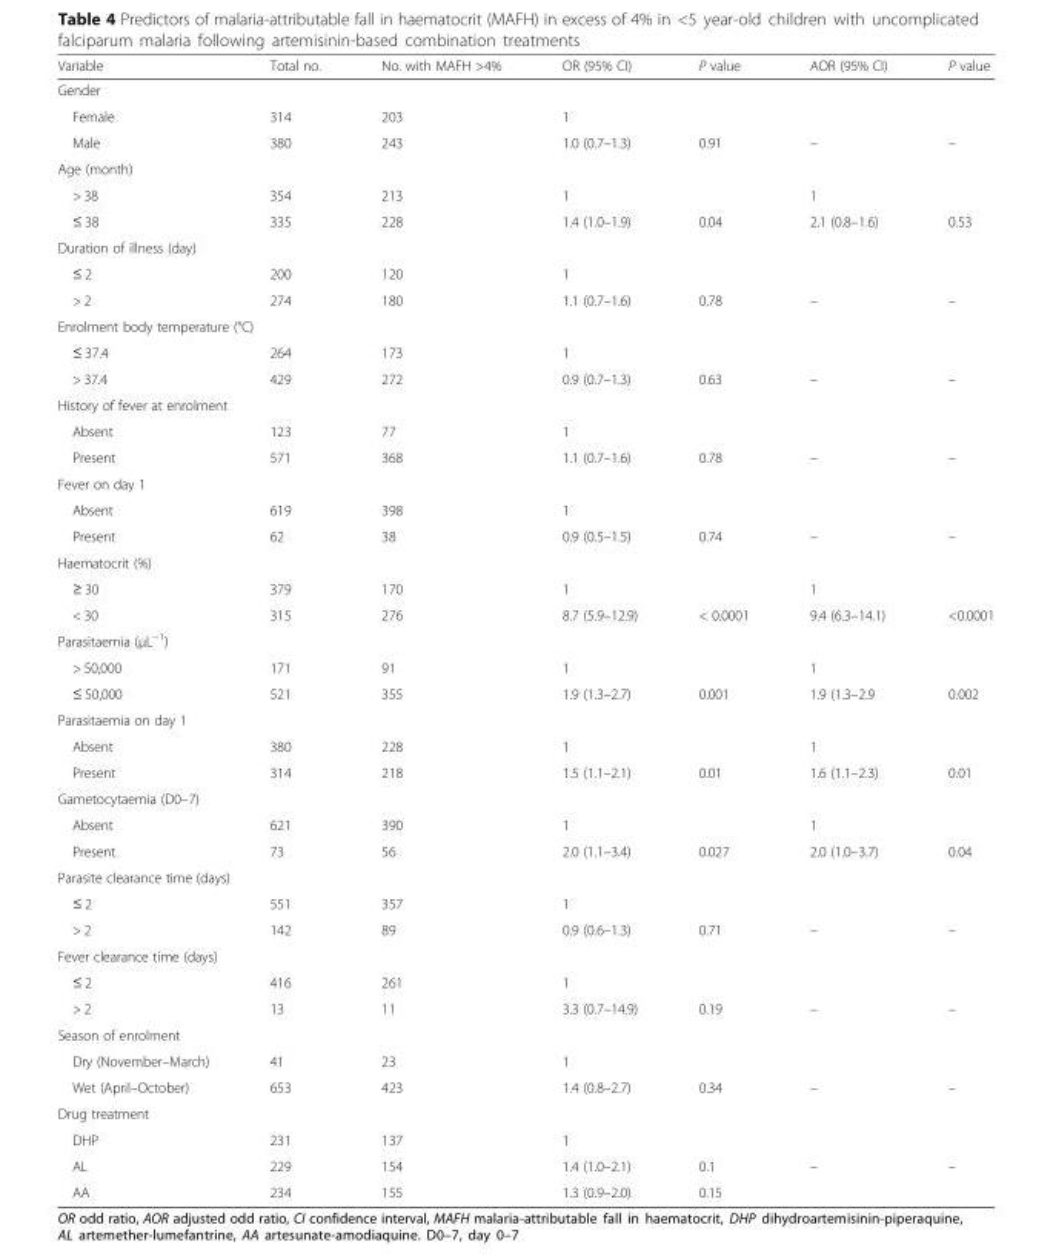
<table><thead><tr><td>Variable</td><td>Total no.</td><td>No. with MAFH &gt;4%</td><td>OR (95% CI)</td><td>P value</td><td>AOR (95% CI)</td><td>P value</td></tr></thead><tbody><tr><td colspan="7">Gender</td></tr><tr><td>Female</td><td>314</td><td>203</td><td>1</td><td></td><td></td><td></td></tr><tr><td>Male</td><td>380</td><td>243</td><td>1.0 (0.7–1.3)</td><td>0.91</td><td>–</td><td>–</td></tr><tr><td colspan="7">Age (month)</td></tr><tr><td>&gt; 38</td><td>354</td><td>213</td><td>1</td><td></td><td>1</td><td></td></tr><tr><td>≤ 38</td><td>335</td><td>228</td><td>1.4 (1.0–1.9)</td><td>0.04</td><td>2.1 (0.8–1.6)</td><td>0.53</td></tr><tr><td colspan="7">Duration of illness (day)</td></tr><tr><td>≤ 2</td><td>200</td><td>120</td><td>1</td><td></td><td></td><td></td></tr><tr><td>&gt; 2</td><td>274</td><td>180</td><td>1.1 (0.7–1.6)</td><td>0.78</td><td>–</td><td>–</td></tr><tr><td colspan="7">Enrolment body temperature (°C)</td></tr><tr><td>≤ 37.4</td><td>264</td><td>173</td><td>1</td><td></td><td></td><td></td></tr><tr><td>&gt; 37.4</td><td>429</td><td>272</td><td>0.9 (0.7–1.3)</td><td>0.63</td><td>–</td><td>–</td></tr><tr><td colspan="7">History of fever at enrolment</td></tr><tr><td>Absent</td><td>123</td><td>77</td><td>1</td><td></td><td></td><td></td></tr><tr><td>Present</td><td>571</td><td>368</td><td>1.1 (0.7–1.6)</td><td>0.78</td><td>–</td><td>–</td></tr><tr><td colspan="7">Fever on day 1</td></tr><tr><td>Absent</td><td>619</td><td>398</td><td>1</td><td></td><td></td><td></td></tr><tr><td>Present</td><td>62</td><td>38</td><td>0.9 (0.5–1.5)</td><td>0.74</td><td>–</td><td>–</td></tr><tr><td colspan="7">Haematocrit (%)</td></tr><tr><td>≥ 30</td><td>379</td><td>170</td><td>1</td><td></td><td>1</td><td></td></tr><tr><td>&lt; 30</td><td>315</td><td>276</td><td>8.7 (5.9–12.9)</td><td>&lt; 0.0001</td><td>9.4 (6.3–14.1)</td><td>&lt;0.0001</td></tr><tr><td colspan="7">Parasitaemia (μL<sup>−1</sup>)</td></tr><tr><td>&gt; 50,000</td><td>171</td><td>91</td><td>1</td><td></td><td>1</td><td></td></tr><tr><td>≤ 50,000</td><td>521</td><td>355</td><td>1.9 (1.3–2.7)</td><td>0.001</td><td>1.9 (1.3–2.9</td><td>0.002</td></tr><tr><td colspan="7">Parasitaemia on day 1</td></tr><tr><td>Absent</td><td>380</td><td>228</td><td>1</td><td></td><td>1</td><td></td></tr><tr><td>Present</td><td>314</td><td>218</td><td>1.5 (1.1–2.1)</td><td>0.01</td><td>1.6 (1.1–2.3)</td><td>0.01</td></tr><tr><td colspan="7">Gametocytaemia (D0–7)</td></tr><tr><td>Absent</td><td>621</td><td>390</td><td>1</td><td></td><td>1</td><td></td></tr><tr><td>Present</td><td>73</td><td>56</td><td>2.0 (1.1–3.4)</td><td>0.027</td><td>2.0 (1.0–3.7)</td><td>0.04</td></tr><tr><td colspan="7">Parasite clearance time (days)</td></tr><tr><td>≤ 2</td><td>551</td><td>357</td><td>1</td><td></td><td></td><td></td></tr><tr><td>&gt; 2</td><td>142</td><td>89</td><td>0.9 (0.6–1.3)</td><td>0.71</td><td>–</td><td>–</td></tr><tr><td colspan="7">Fever clearance time (days)</td></tr><tr><td>≤ 2</td><td>416</td><td>261</td><td>1</td><td></td><td></td><td></td></tr><tr><td>&gt; 2</td><td>13</td><td>11</td><td>3.3 (0.7–14.9)</td><td>0.19</td><td>–</td><td>–</td></tr><tr><td colspan="7">Season of enrolment</td></tr><tr><td>Dry (November–March)</td><td>41</td><td>23</td><td>1</td><td></td><td></td><td></td></tr><tr><td>Wet (April–October)</td><td>653</td><td>423</td><td>1.4 (0.8–2.7)</td><td>0.34</td><td>–</td><td>–</td></tr><tr><td colspan="7">Drug treatment</td></tr><tr><td>DHP</td><td>231</td><td>137</td><td>1</td><td></td><td></td><td></td></tr><tr><td>AL</td><td>229</td><td>154</td><td>1.4 (1.0–2.1)</td><td>0.1</td><td>–</td><td>–</td></tr><tr><td>AA</td><td>234</td><td>155</td><td>1.3 (0.9–2.0)</td><td>0.15</td><td></td><td></td></tr></tbody></table>